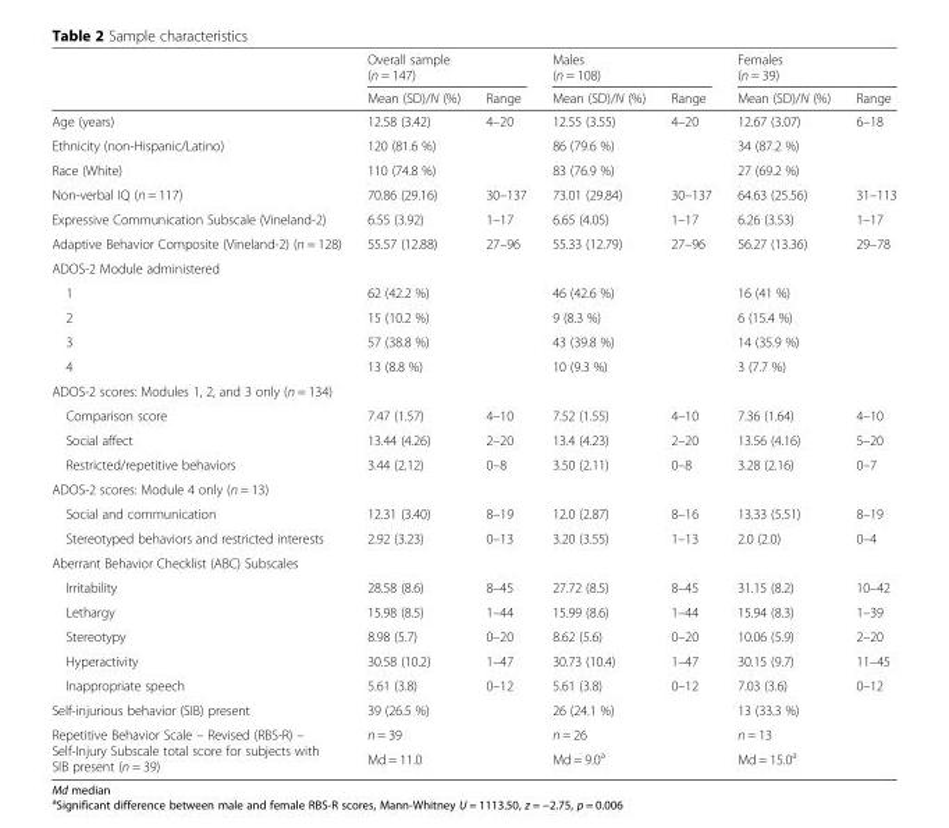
<table><thead><tr><td rowspan="3"></td><td rowspan="2" colspan="2">Overall sample (n = 147)</td><td rowspan="2" colspan="2">Males (n = 108)</td><td rowspan="2" colspan="2">Females (n = 39)</td></tr><tr></tr><tr><td>Mean (SD)/N (%)</td><td>Range</td><td>Mean (SD)/N (%)</td><td>Range</td><td>Mean (SD)/N (%)</td><td>Range</td></tr></thead><tbody><tr><td>Age (years)</td><td>12.58 (3.42)</td><td>4–20</td><td>12.55 (3.55)</td><td>4–20</td><td>12.67 (3.07)</td><td>6–18</td></tr><tr><td>Ethnicity (non-Hispanic/Latino)</td><td>120 (81.6 %)</td><td></td><td>86 (79.6 %)</td><td></td><td>34 (87.2 %)</td><td></td></tr><tr><td>Race (White)</td><td>110 (74.8 %)</td><td></td><td>83 (76.9 %)</td><td></td><td>27 (69.2 %)</td><td></td></tr><tr><td>Non-verbal IQ (n = 117)</td><td>70.86 (29.16)</td><td>30–137</td><td>73.01 (29.84)</td><td>30–137</td><td>64.63 (25.56)</td><td>31–113</td></tr><tr><td>Expressive Communication Subscale (Vineland-2)</td><td>6.55 (3.92)</td><td>1–17</td><td>6.65 (4.05)</td><td>1–17</td><td>6.26 (3.53)</td><td>1–17</td></tr><tr><td>Adaptive Behavior Composite (Vineland-2) (n = 128)</td><td>55.57 (12.88)</td><td>27–96</td><td>55.33 (12.79)</td><td>27–96</td><td>56.27 (13.36)</td><td>29–78</td></tr><tr><td colspan="7">ADOS-2 Module administered</td></tr><tr><td>1</td><td>62 (42.2 %)</td><td></td><td>46 (42.6 %)</td><td></td><td>16 (41 %)</td><td></td></tr><tr><td>2</td><td>15 (10.2 %)</td><td></td><td>9 (8.3 %)</td><td></td><td>6 (15.4 %)</td><td></td></tr><tr><td>3</td><td>57 (38.8 %)</td><td></td><td>43 (39.8 %)</td><td></td><td>14 (35.9 %)</td><td></td></tr><tr><td>4</td><td>13 (8.8 %)</td><td></td><td>10 (9.3 %)</td><td></td><td>3 (7.7 %)</td><td></td></tr><tr><td colspan="7">ADOS-2 scores: Modules 1, 2, and 3 only (n = 134)</td></tr><tr><td>Comparison score</td><td>7.47 (1.57)</td><td>4–10</td><td>7.52 (1.55)</td><td>4–10</td><td>7.36 (1.64)</td><td>4–10</td></tr><tr><td>Social affect</td><td>13.44 (4.26)</td><td>2–20</td><td>13.4 (4.23)</td><td>2–20</td><td>13.56 (4.16)</td><td>5–20</td></tr><tr><td>Restricted/repetitive behaviors</td><td>3.44 (2.12)</td><td>0–8</td><td>3.50 (2.11)</td><td>0–8</td><td>3.28 (2.16)</td><td>0–7</td></tr><tr><td colspan="7">ADOS-2 scores: Module 4 only (n = 13)</td></tr><tr><td>Social and communication</td><td>12.31 (3.40)</td><td>8–19</td><td>12.0 (2.87)</td><td>8–16</td><td>13.33 (5.51)</td><td>8–19</td></tr><tr><td>Stereotyped behaviors and restricted interests</td><td>2.92 (3.23)</td><td>0–13</td><td>3.20 (3.55)</td><td>1–13</td><td>2.0 (2.0)</td><td>0–4</td></tr><tr><td colspan="7">Aberrant Behavior Checklist (ABC) Subscales</td></tr><tr><td>Irritability</td><td>28.58 (8.6)</td><td>8–45</td><td>27.72 (8.5)</td><td>8–45</td><td>31.15 (8.2)</td><td>10–42</td></tr><tr><td>Lethargy</td><td>15.98 (8.5)</td><td>1–44</td><td>15.99 (8.6)</td><td>1–44</td><td>15.94 (8.3)</td><td>1–39</td></tr><tr><td>Stereotypy</td><td>8.98 (5.7)</td><td>0–20</td><td>8.62 (5.6)</td><td>0–20</td><td>10.06 (5.9)</td><td>2–20</td></tr><tr><td>Hyperactivity</td><td>30.58 (10.2)</td><td>1–47</td><td>30.73 (10.4)</td><td>1–47</td><td>30.15 (9.7)</td><td>11–45</td></tr><tr><td>Inappropriate speech</td><td>5.61 (3.8)</td><td>0–12</td><td>5.61 (3.8)</td><td>0–12</td><td>7.03 (3.6)</td><td>0–12</td></tr><tr><td>Self-injurious behavior (SIB) present</td><td>39 (26.5 %)</td><td></td><td>26 (24.1 %)</td><td></td><td>13 (33.3 %)</td><td></td></tr><tr><td rowspan="2">Repetitive Behavior Scale – Revised (RBS-R) – Self-Injury Subscale total score for subjects with SIB present (n = 39)</td><td>n = 39</td><td></td><td>n = 26</td><td></td><td>n = 13</td><td rowspan="2"></td></tr><tr><td>Md = 11.0</td><td></td><td>Md = 9.0<sup>a</sup></td><td></td><td>Md = 15.0<sup>a</sup></td></tr></tbody></table>